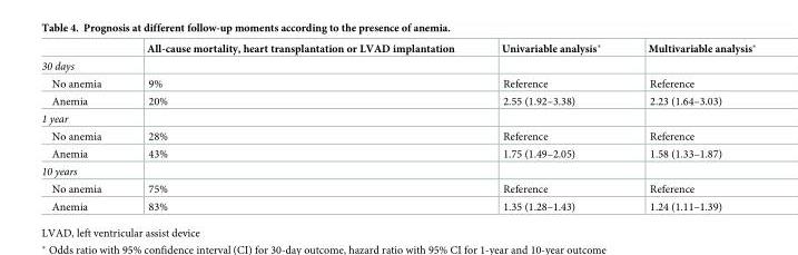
<table><thead><tr><td></td><td>All-cause mortality, heart transplantation or LVAD implantation</td><td>Univariable analysis*</td><td>Multivariable analysis*</td></tr></thead><tbody><tr><td colspan="4">30 days</td></tr><tr><td>No anemia</td><td>9%</td><td>Reference</td><td>Reference</td></tr><tr><td>Anemia</td><td>20%</td><td>2.55 (1.92–3.38)</td><td>2.23 (1.64–3.03)</td></tr><tr><td colspan="4">1 year</td></tr><tr><td>No anemia</td><td>28%</td><td>Reference</td><td>Reference</td></tr><tr><td>Anemia</td><td>43%</td><td>1.75 (1.49–2.05)</td><td>1.58 (1.33–1.87)</td></tr><tr><td colspan="4">10 years</td></tr><tr><td>No anemia</td><td>75%</td><td>Reference</td><td>Reference</td></tr><tr><td>Anemia</td><td>83%</td><td>1.35 (1.28–1.43)</td><td>1.24 (1.11–1.39)</td></tr></tbody></table>